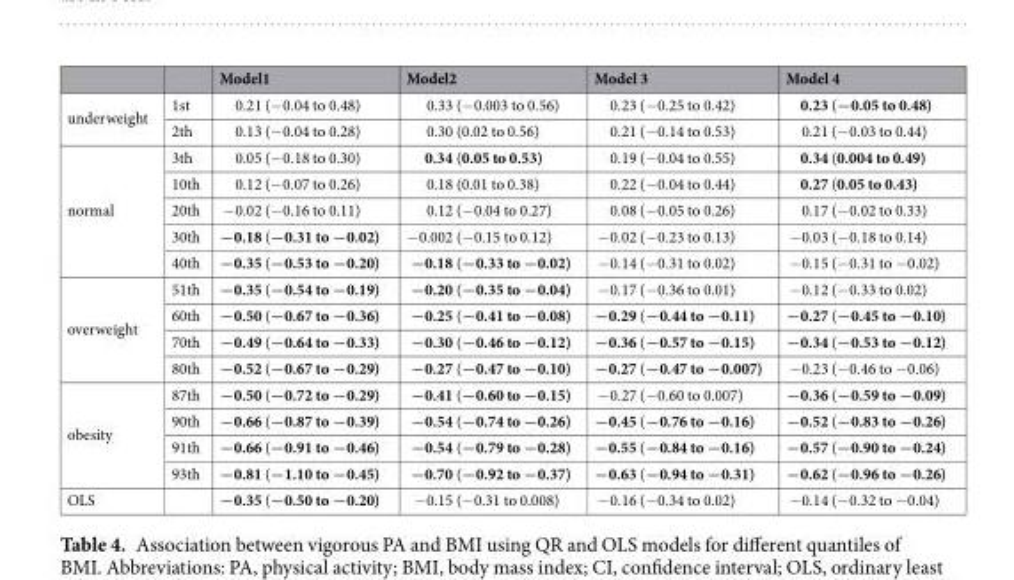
<table><thead><tr><td></td><td></td><td>Model1</td><td>Model2</td><td>Model 3</td><td>Model 4</td></tr></thead><tbody><tr><td rowspan="2">underweight</td><td>1st</td><td>0.21 (−0.04 to 0.48)</td><td>0.33 (−0.003 to 0.56)</td><td>0.23 (−0.25 to 0.42)</td><td>0.23 (−0.05 to 0.48)</td></tr><tr><td>2th</td><td>0.13 (−0.04 to 0.28)</td><td>0.30 (0.02 to 0.56)</td><td>0.21 (−0.14 to 0.53)</td><td>0.21 (−0.03 to 0.44)</td></tr><tr><td rowspan="5">normal</td><td>3th</td><td>0.05 (−0.18 to 0.30)</td><td>0.34 (0.05 to 0.53)</td><td>0.19 (−0.04 to 0.55)</td><td>0.34 (0.004 to 0.49)</td></tr><tr><td>10th</td><td>0.12 (−0.07 to 0.26)</td><td>0.18 (0.01 to 0.38)</td><td>0.22 (−0.04 to 0.44)</td><td>0.27 (0.05 to 0.43)</td></tr><tr><td>20th</td><td>−0.02 (−0.16 to 0.11)</td><td>0.12 (−0.04 to 0.27)</td><td>0.08 (−0.05 to 0.26)</td><td>0.17 (−0.02 to 0.33)</td></tr><tr><td>30th</td><td>−0.18 (−0.31 to −0.02)</td><td>−0.002 (−0.15 to 0.12)</td><td>−0.02 (−0.23 to 0.13)</td><td>−0.03 (−0.18 to 0.14)</td></tr><tr><td>40th</td><td>−0.35 (−0.53 to −0.20)</td><td>−0.18 (−0.33 to −0.02)</td><td>−0.14 (−0.31 to 0.02)</td><td>−0.15 (−0.31 to −0.02)</td></tr><tr><td rowspan="4">overweight</td><td>51th</td><td>−0.35 (−0.54 to −0.19)</td><td>−0.20 (−0.35 to −0.04)</td><td>−0.17 (−0.36 to 0.01)</td><td>−0.12 (−0.33 to 0.02)</td></tr><tr><td>60th</td><td>−0.50 (−0.67 to −0.36)</td><td>−0.25 (−0.41 to −0.08)</td><td>−0.29 (−0.44 to −0.11)</td><td>−0.27 (−0.45 to −0.10)</td></tr><tr><td>70th</td><td>−0.49 (−0.64 to −0.33)</td><td>−0.30 (−0.46 to −0.12)</td><td>−0.36 (−0.57 to −0.15)</td><td>−0.34 (−0.53 to −0.12)</td></tr><tr><td>80th</td><td>−0.52 (−0.67 to −0.29)</td><td>−0.27 (−0.47 to −0.10)</td><td>−0.27 (−0.47 to −0.007)</td><td>−0.23 (−0.46 to −0.06)</td></tr><tr><td rowspan="4">obesity</td><td>87th</td><td>−0.50 (−0.72 to −0.29)</td><td>−0.41 (−0.60 to −0.15)</td><td>−0.27 (−0.60 to 0.007)</td><td>−0.36 (−0.59 to −0.09)</td></tr><tr><td>90th</td><td>−0.66 (−0.87 to −0.39)</td><td>−0.54 (−0.74 to −0.26)</td><td>−0.45 (−0.76 to −0.16)</td><td>−0.52 (−0.83 to −0.26)</td></tr><tr><td>91th</td><td>−0.66 (−0.91 to −0.46)</td><td>−0.54 (−0.79 to −0.28)</td><td>−0.55 (−0.84 to −0.16)</td><td>−0.57 (−0.90 to −0.24)</td></tr><tr><td>93th</td><td>−0.81 (−1.10 to −0.45)</td><td>−0.70 (−0.92 to −0.37)</td><td>−0.63 (−0.94 to −0.31)</td><td>−0.62 (−0.96 to −0.26)</td></tr><tr><td>OLS</td><td></td><td>−0.35 (−0.50 to −0.20)</td><td>−0.15 (−0.31 to 0.008)</td><td>−0.16 (−0.34 to 0.02)</td><td>−0.14 (−0.32 to −0.04)</td></tr></tbody></table>